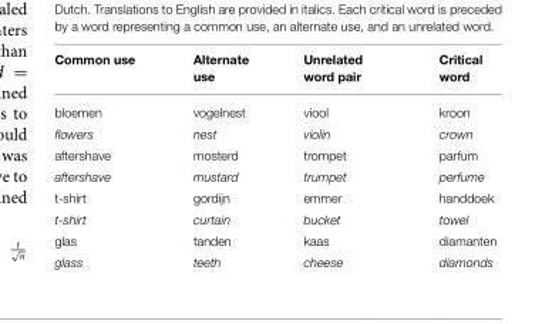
<table><thead><tr><td>Common use</td><td>Alternate use</td><td>Unrelated word pair</td><td>Critical word</td></tr></thead><tbody><tr><td>bloemen</td><td>vogelnest</td><td>viool</td><td>kroon</td></tr><tr><td>flowers</td><td>nest</td><td>violin</td><td>crown</td></tr><tr><td>aftershave</td><td>mosterd</td><td>trompet</td><td>parfum</td></tr><tr><td>aftershave</td><td>mustard</td><td>trumpet</td><td>perfume</td></tr><tr><td>t-shirt</td><td>gordijn</td><td>emmer</td><td>handdoek</td></tr><tr><td>t-shirt</td><td>curtain</td><td>bucket</td><td>towel</td></tr><tr><td>glas</td><td>tanden</td><td>kaas</td><td>diamanten</td></tr><tr><td>glass</td><td>teeth</td><td>cheese</td><td>diamonds</td></tr></tbody></table>